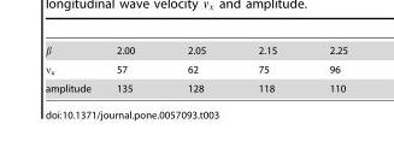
<table><tbody><tr><td>β</td><td>2.00</td><td>2.05</td><td>2.15</td><td>2.25</td></tr><tr><td>ν<sub>x</sub></td><td>57</td><td>62</td><td>75</td><td>96</td></tr><tr><td>amplitude</td><td>135</td><td>128</td><td>118</td><td>110</td></tr></tbody></table>